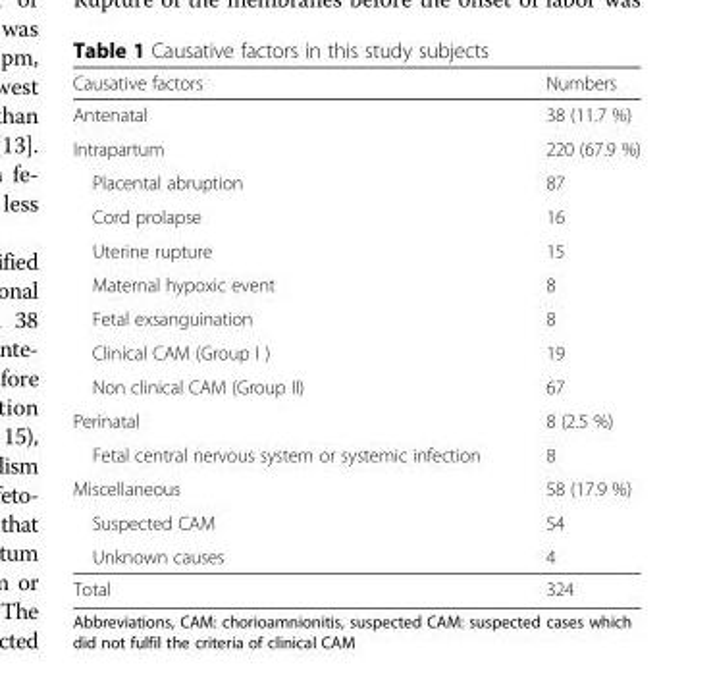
<table><thead><tr><td>Causative factors</td><td>Numbers</td></tr></thead><tbody><tr><td>Antenatal</td><td>38 (11.7 %)</td></tr><tr><td>Intrapartum</td><td>220 (67.9 %)</td></tr><tr><td>Placental abruption</td><td>87</td></tr><tr><td>Cord prolapse</td><td>16</td></tr><tr><td>Uterine rupture</td><td>15</td></tr><tr><td>Maternal hypoxic event</td><td>8</td></tr><tr><td>Fetal exsanguination</td><td>8</td></tr><tr><td>Clinical CAM (Group I )</td><td>19</td></tr><tr><td>Non clinical CAM (Group II)</td><td>67</td></tr><tr><td>Perinatal</td><td>8 (2.5 %)</td></tr><tr><td>Fetal central nervous system or systemic infection</td><td>8</td></tr><tr><td>Miscellaneous</td><td>58 (17.9 %)</td></tr><tr><td>Suspected CAM</td><td>54</td></tr><tr><td>Unknown causes</td><td>4</td></tr><tr><td>Total</td><td>324</td></tr></tbody></table>